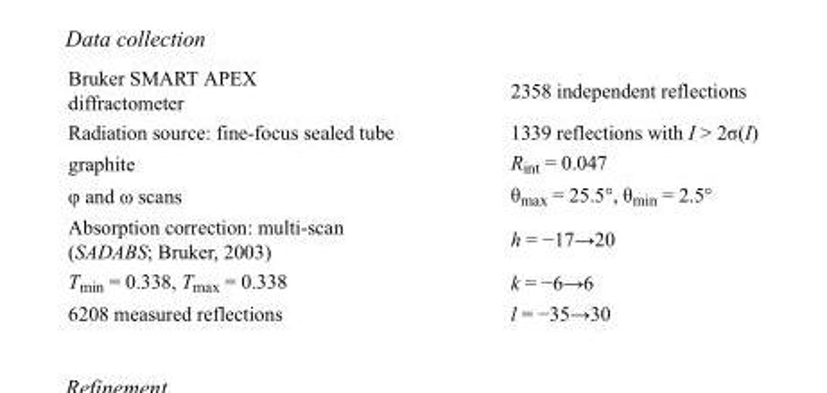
<table><tbody><tr><td>Bruker SMART APEX diffractometer</td><td>2358 independent reflections</td></tr><tr><td>Radiation source: fine-focus sealed tube</td><td>1339 reflections with I &gt; 2σ(I)</td></tr><tr><td>graphite</td><td>R<sub>int</sub> = 0.047</td></tr><tr><td>φ and ω scans</td><td>θ<sub>max</sub> = 25.5°, θ<sub>min</sub> = 2.5°</td></tr><tr><td>Absorption correction: multi-scan (SADABS; Bruker, 2003)</td><td>h = −17→20</td></tr><tr><td>T<sub>min</sub> = 0.338, T<sub>max</sub> = 0.338</td><td>k = −6→6</td></tr><tr><td>6208 measured reflections</td><td>l = −35→30</td></tr></tbody></table>